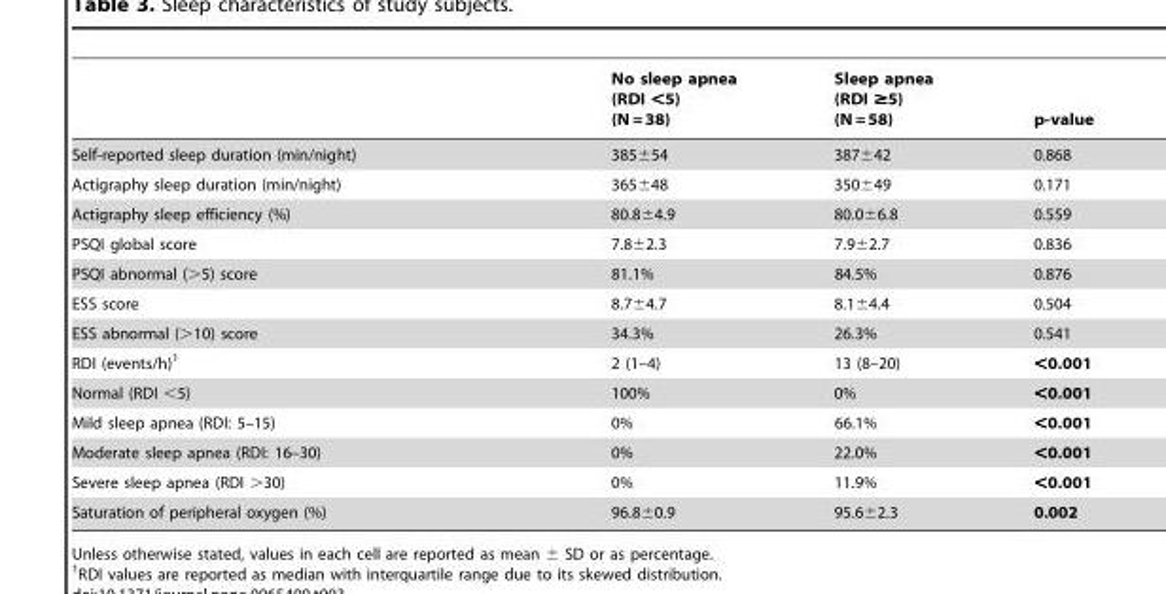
<table><thead><tr><td></td><td>No sleep apnea (RDI &lt;5) (N = 38)</td><td>Sleep apnea (RDI ≥5) (N = 58)</td><td>p-value</td></tr></thead><tbody><tr><td>Self-reported sleep duration (min/night)</td><td>385±54</td><td>387±42</td><td>0.868</td></tr><tr><td>Actigraphy sleep duration (min/night)</td><td>365±48</td><td>350±49</td><td>0.171</td></tr><tr><td>Actigraphy sleep efficiency (%)</td><td>80.8±4.9</td><td>80.0±6.8</td><td>0.559</td></tr><tr><td>PSQI global score</td><td>7.8±2.3</td><td>7.9±2.7</td><td>0.836</td></tr><tr><td>PSQI abnormal (&gt;5) score</td><td>81.1%</td><td>84.5%</td><td>0.876</td></tr><tr><td>ESS score</td><td>8.7±4.7</td><td>8.1±4.4</td><td>0.504</td></tr><tr><td>ESS abnormal (&gt;10) score</td><td>34.3%</td><td>26.3%</td><td>0.541</td></tr><tr><td>RDI (events/h)<sup>1</sup></td><td>2 (1–4)</td><td>13 (8–20)</td><td>&lt;0.001</td></tr><tr><td>Normal (RDI &lt;5)</td><td>100%</td><td>0%</td><td>&lt;0.001</td></tr><tr><td>Mild sleep apnea (RDI: 5–15)</td><td>0%</td><td>66.1%</td><td>&lt;0.001</td></tr><tr><td>Moderate sleep apnea (RDI: 16–30)</td><td>0%</td><td>22.0%</td><td>&lt;0.001</td></tr><tr><td>Severe sleep apnea (RDI &gt;30)</td><td>0%</td><td>11.9%</td><td>&lt;0.001</td></tr><tr><td>Saturation of peripheral oxygen (%)</td><td>96.8±0.9</td><td>95.6±2.3</td><td>0.002</td></tr></tbody></table>